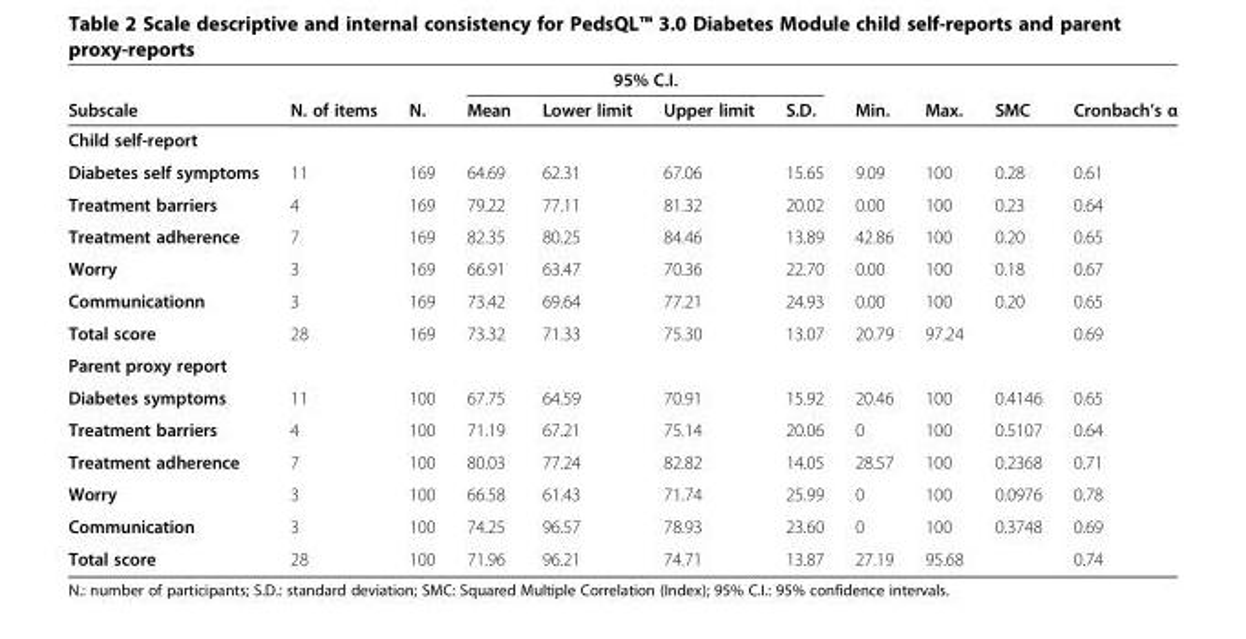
<table><thead><tr><td rowspan="2">Subscale</td><td rowspan="2">N. of items</td><td rowspan="2">N.</td><td colspan="4">95% C.I.</td><td rowspan="2">Min.</td><td rowspan="2">Max.</td><td rowspan="2">SMC</td><td rowspan="2">Cronbach’s α</td></tr><tr><td>Mean</td><td>Lower limit</td><td>Upper limit</td><td>S.D.</td></tr></thead><tbody><tr><td colspan="11">Child self-report</td></tr><tr><td>Diabetes self symptoms</td><td>11</td><td>169</td><td>64.69</td><td>62.31</td><td>67.06</td><td>15.65</td><td>9.09</td><td>100</td><td>0.28</td><td>0.61</td></tr><tr><td>Treatment barriers</td><td>4</td><td>169</td><td>79.22</td><td>77.11</td><td>81.32</td><td>20.02</td><td>0.00</td><td>100</td><td>0.23</td><td>0.64</td></tr><tr><td>Treatment adherence</td><td>7</td><td>169</td><td>82.35</td><td>80.25</td><td>84.46</td><td>13.89</td><td>42.86</td><td>100</td><td>0.20</td><td>0.65</td></tr><tr><td>Worry</td><td>3</td><td>169</td><td>66.91</td><td>63.47</td><td>70.36</td><td>22.70</td><td>0.00</td><td>100</td><td>0.18</td><td>0.67</td></tr><tr><td>Communicationn</td><td>3</td><td>169</td><td>73.42</td><td>69.64</td><td>77.21</td><td>24.93</td><td>0.00</td><td>100</td><td>0.20</td><td>0.65</td></tr><tr><td>Total score</td><td>28</td><td>169</td><td>73.32</td><td>71.33</td><td>75.30</td><td>13.07</td><td>20.79</td><td>97.24</td><td></td><td>0.69</td></tr><tr><td colspan="11">Parent proxy report</td></tr><tr><td>Diabetes symptoms</td><td>11</td><td>100</td><td>67.75</td><td>64.59</td><td>70.91</td><td>15.92</td><td>20.46</td><td>100</td><td>0.4146</td><td>0.65</td></tr><tr><td>Treatment barriers</td><td>4</td><td>100</td><td>71.19</td><td>67.21</td><td>75.14</td><td>20.06</td><td>0</td><td>100</td><td>0.5107</td><td>0.64</td></tr><tr><td>Treatment adherence</td><td>7</td><td>100</td><td>80.03</td><td>77.24</td><td>82.82</td><td>14.05</td><td>28.57</td><td>100</td><td>0.2368</td><td>0.71</td></tr><tr><td>Worry</td><td>3</td><td>100</td><td>66.58</td><td>61.43</td><td>71.74</td><td>25.99</td><td>0</td><td>100</td><td>0.0976</td><td>0.78</td></tr><tr><td>Communication</td><td>3</td><td>100</td><td>74.25</td><td>96.57</td><td>78.93</td><td>23.60</td><td>0</td><td>100</td><td>0.3748</td><td>0.69</td></tr><tr><td>Total score</td><td>28</td><td>100</td><td>71.96</td><td>96.21</td><td>74.71</td><td>13.87</td><td>27.19</td><td>95.68</td><td></td><td>0.74</td></tr></tbody></table>